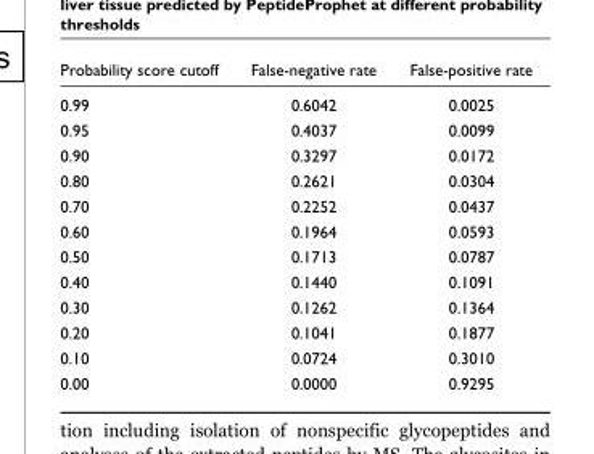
<table><thead><tr><td>Probability score cutoff</td><td>False-negative rate</td><td>False-positive rate</td></tr></thead><tbody><tr><td>0.99</td><td>0.6042</td><td>0.0025</td></tr><tr><td>0.95</td><td>0.4037</td><td>0.0099</td></tr><tr><td>0.90</td><td>0.3297</td><td>0.0172</td></tr><tr><td>0.80</td><td>0.2621</td><td>0.0304</td></tr><tr><td>0.70</td><td>0.2252</td><td>0.0437</td></tr><tr><td>0.60</td><td>0.1964</td><td>0.0593</td></tr><tr><td>0.50</td><td>0.1713</td><td>0.0787</td></tr><tr><td>0.40</td><td>0.1440</td><td>0.1091</td></tr><tr><td>0.30</td><td>0.1262</td><td>0.1364</td></tr><tr><td>0.20</td><td>0.1041</td><td>0.1877</td></tr><tr><td>0.10</td><td>0.0724</td><td>0.3010</td></tr><tr><td>0.00</td><td>0.0000</td><td>0.9295</td></tr></tbody></table>